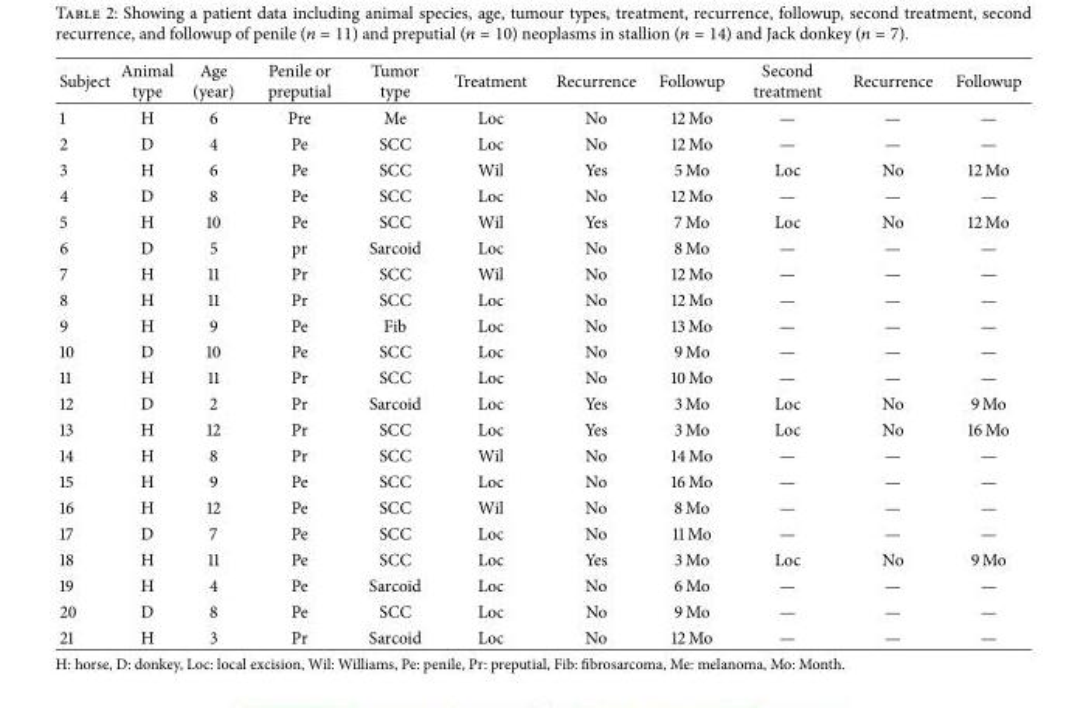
<table><thead><tr><td>Subject</td><td>Animal type</td><td>Age (year)</td><td>Penile or preputial</td><td>Tumor type</td><td>Treatment</td><td>Recurrence</td><td>Followup</td><td>Second treatment</td><td>Recurrence</td><td>Followup</td></tr></thead><tbody><tr><td>1</td><td>H</td><td>6</td><td>Pre</td><td>Me</td><td>Loc</td><td>No</td><td>12 Mo</td><td>—</td><td>—</td><td>—</td></tr><tr><td>2</td><td>D</td><td>4</td><td>Pe</td><td>SCC</td><td>Loc</td><td>No</td><td>12 Mo</td><td>—</td><td>—</td><td>—</td></tr><tr><td>3</td><td>H</td><td>6</td><td>Pe</td><td>SCC</td><td>Wil</td><td>Yes</td><td>5 Mo</td><td>Loc</td><td>No</td><td>12 Mo</td></tr><tr><td>4</td><td>D</td><td>8</td><td>Pe</td><td>SCC</td><td>Loc</td><td>No</td><td>12 Mo</td><td>—</td><td>—</td><td>—</td></tr><tr><td>5</td><td>H</td><td>10</td><td>Pe</td><td>SCC</td><td>Wil</td><td>Yes</td><td>7 Mo</td><td>Loc</td><td>No</td><td>12 Mo</td></tr><tr><td>6</td><td>D</td><td>5</td><td>pr</td><td>Sarcoid</td><td>Loc</td><td>No</td><td>8 Mo</td><td>—</td><td>—</td><td>—</td></tr><tr><td>7</td><td>H</td><td>11</td><td>Pr</td><td>SCC</td><td>Wil</td><td>No</td><td>12 Mo</td><td>—</td><td>—</td><td>—</td></tr><tr><td>8</td><td>H</td><td>11</td><td>Pr</td><td>SCC</td><td>Loc</td><td>No</td><td>12 Mo</td><td>—</td><td>—</td><td>—</td></tr><tr><td>9</td><td>H</td><td>9</td><td>Pe</td><td>Fib</td><td>Loc</td><td>No</td><td>13 Mo</td><td>—</td><td>—</td><td>—</td></tr><tr><td>10</td><td>D</td><td>10</td><td>Pe</td><td>SCC</td><td>Loc</td><td>No</td><td>9 Mo</td><td>—</td><td>—</td><td>—</td></tr><tr><td>11</td><td>H</td><td>11</td><td>Pr</td><td>SCC</td><td>Loc</td><td>No</td><td>10 Mo</td><td>—</td><td>—</td><td>—</td></tr><tr><td>12</td><td>D</td><td>2</td><td>Pr</td><td>Sarcoid</td><td>Loc</td><td>Yes</td><td>3 Mo</td><td>Loc</td><td>No</td><td>9 Mo</td></tr><tr><td>13</td><td>H</td><td>12</td><td>Pr</td><td>SCC</td><td>Loc</td><td>Yes</td><td>3 Mo</td><td>Loc</td><td>No</td><td>16 Mo</td></tr><tr><td>14</td><td>H</td><td>8</td><td>Pr</td><td>SCC</td><td>Wil</td><td>No</td><td>14 Mo</td><td>—</td><td>—</td><td>—</td></tr><tr><td>15</td><td>H</td><td>9</td><td>Pe</td><td>SCC</td><td>Loc</td><td>No</td><td>16 Mo</td><td>—</td><td>—</td><td>—</td></tr><tr><td>16</td><td>H</td><td>12</td><td>Pe</td><td>SCC</td><td>Wil</td><td>No</td><td>8 Mo</td><td>—</td><td>—</td><td>—</td></tr><tr><td>17</td><td>D</td><td>7</td><td>Pe</td><td>SCC</td><td>Loc</td><td>No</td><td>11 Mo</td><td>—</td><td>—</td><td>—</td></tr><tr><td>18</td><td>H</td><td>11</td><td>Pe</td><td>SCC</td><td>Loc</td><td>Yes</td><td>3 Mo</td><td>Loc</td><td>No</td><td>9 Mo</td></tr><tr><td>19</td><td>H</td><td>4</td><td>Pe</td><td>Sarcoid</td><td>Loc</td><td>No</td><td>6 Mo</td><td>—</td><td>—</td><td>—</td></tr><tr><td>20</td><td>D</td><td>8</td><td>Pe</td><td>SCC</td><td>Loc</td><td>No</td><td>9 Mo</td><td>—</td><td>—</td><td>—</td></tr><tr><td>21</td><td>H</td><td>3</td><td>Pr</td><td>Sarcoid</td><td>Loc</td><td>No</td><td>12 Mo</td><td>—</td><td>—</td><td>—</td></tr></tbody></table>